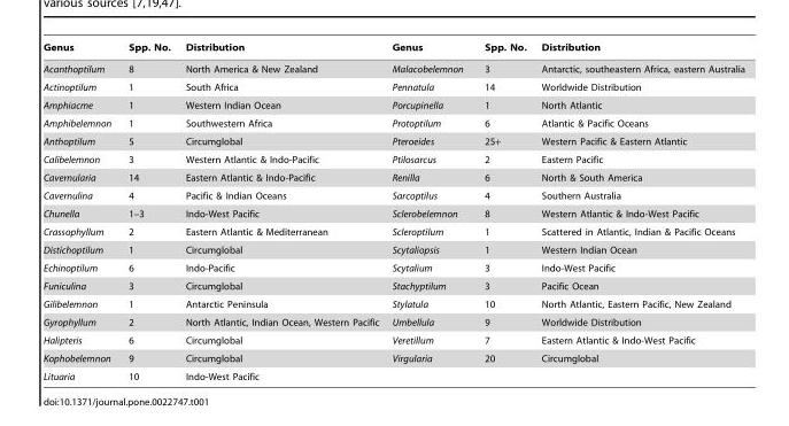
<table><thead><tr><td>Genus</td><td>Spp. No.</td><td>Distribution</td><td>Genus</td><td>Spp. No.</td><td>Distribution</td></tr></thead><tbody><tr><td>Acanthoptilum</td><td>8</td><td>North America &amp; New Zealand</td><td>Malacobelemnon</td><td>3</td><td>Antarctic, southeastern Africa, eastern Australia</td></tr><tr><td>Actinoptilum</td><td>1</td><td>South Africa</td><td>Pennatula</td><td>14</td><td>Worldwide Distribution</td></tr><tr><td>Amphiacme</td><td>1</td><td>Western Indian Ocean</td><td>Porcupinella</td><td>1</td><td>North Atlantic</td></tr><tr><td>Amphibelemnon</td><td>1</td><td>Southwestern Africa</td><td>Protoptilum</td><td>6</td><td>Atlantic &amp; Pacific Oceans</td></tr><tr><td>Anthoptilum</td><td>5</td><td>Circumglobal</td><td>Pteroeides</td><td>25+</td><td>Western Pacific &amp; Eastern Atlantic</td></tr><tr><td>Calibelemnon</td><td>3</td><td>Western Atlantic &amp; Indo-Pacific</td><td>Ptilosarcus</td><td>2</td><td>Eastern Pacific</td></tr><tr><td>Cavernularia</td><td>14</td><td>Eastern Atlantic &amp; Indo-Pacific</td><td>Renilla</td><td>6</td><td>North &amp; South America</td></tr><tr><td>Cavernulina</td><td>4</td><td>Pacific &amp; Indian Oceans</td><td>Sarcoptilus</td><td>4</td><td>Southern Australia</td></tr><tr><td>Chunella</td><td>1–3</td><td>Indo-West Pacific</td><td>Sclerobelemnon</td><td>8</td><td>Western Atlantic &amp; Indo-West Pacific</td></tr><tr><td>Crassophyllum</td><td>2</td><td>Eastern Atlantic &amp; Mediterranean</td><td>Scleroptilum</td><td>1</td><td>Scattered in Atlantic, Indian &amp; Pacific Oceans</td></tr><tr><td>Distichoptilum</td><td>1</td><td>Circumglobal</td><td>Scytaliopsis</td><td>1</td><td>Western Indian Ocean</td></tr><tr><td>Echinoptilum</td><td>6</td><td>Indo-Pacific</td><td>Scytalium</td><td>3</td><td>Indo-West Pacific</td></tr><tr><td>Funiculina</td><td>3</td><td>Circumglobal</td><td>Stachyptilum</td><td>3</td><td>Pacific Ocean</td></tr><tr><td>Gilibelemnon</td><td>1</td><td>Antarctic Peninsula</td><td>Stylatula</td><td>10</td><td>North Atlantic, Eastern Pacific, New Zealand</td></tr><tr><td>Gyrophyllum</td><td>2</td><td>North Atlantic, Indian Ocean, Western Pacific</td><td>Umbellula</td><td>9</td><td>Worldwide Distribution</td></tr><tr><td>Halipteris</td><td>6</td><td>Circumglobal</td><td>Veretillum</td><td>7</td><td>Eastern Atlantic &amp; Indo-West Pacific</td></tr><tr><td>Kophobelemnon</td><td>9</td><td>Circumglobal</td><td>Virgularia</td><td>20</td><td>Circumglobal</td></tr><tr><td>Lituaria</td><td>10</td><td>Indo-West Pacific</td><td></td><td></td><td></td></tr></tbody></table>